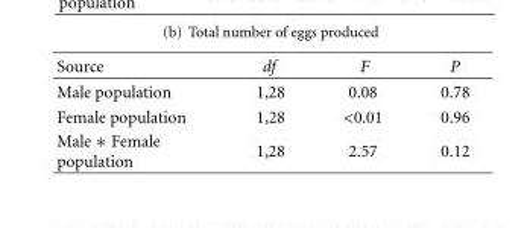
<table><thead><tr><td>Source</td><td>df</td><td>F</td><td>P</td></tr></thead><tbody><tr><td>Male population</td><td>1,28</td><td>0.08</td><td>0.78</td></tr><tr><td>Female population</td><td>1,28</td><td>&lt;0.01</td><td>0.96</td></tr><tr><td>Male ∗ Female population</td><td>1,28</td><td>2.57</td><td>0.12</td></tr></tbody></table>